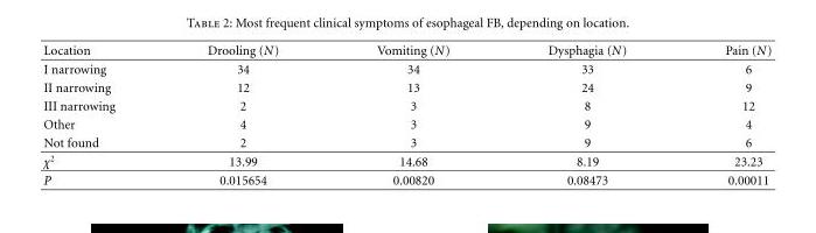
<table><thead><tr><td>Location</td><td>Drooling (N)</td><td>Vomiting (N)</td><td>Dysphagia (N)</td><td>Pain (N)</td></tr></thead><tbody><tr><td>I narrowing</td><td>34</td><td>34</td><td>33</td><td>6</td></tr><tr><td>II narrowing</td><td>12</td><td>13</td><td>24</td><td>9</td></tr><tr><td>III narrowing</td><td>2</td><td>3</td><td>8</td><td>12</td></tr><tr><td>Other</td><td>4</td><td>3</td><td>9</td><td>4</td></tr><tr><td>Not found</td><td>2</td><td>3</td><td>9</td><td>6</td></tr><tr><td>χ<sup>2</sup></td><td>13.99</td><td>14.68</td><td>8.19</td><td>23.23</td></tr><tr><td>P</td><td>0.015654</td><td>0.00820</td><td>0.08473</td><td>0.00011</td></tr></tbody></table>